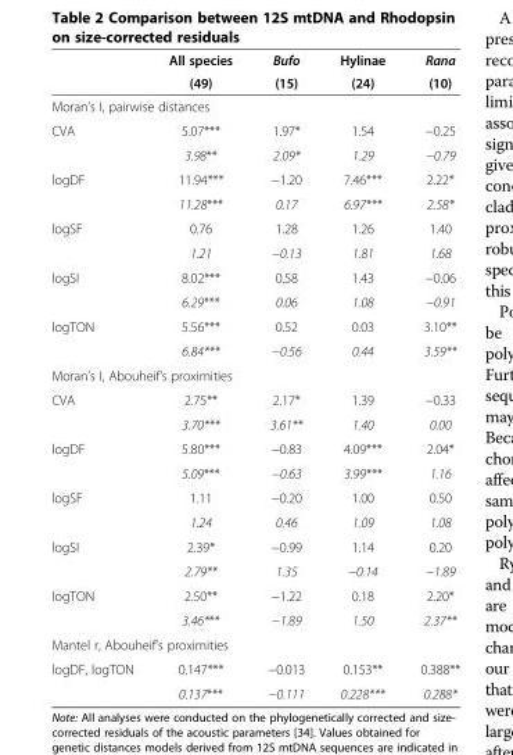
<table><thead><tr><td rowspan="2"></td><td rowspan="2">All species (49)</td><td rowspan="2">Bufo (15)</td><td rowspan="2">Hylinae (24)</td><td rowspan="2">Rana (10)</td></tr><tr></tr></thead><tbody><tr><td colspan="5">Moran’s I, pairwise distances</td></tr><tr><td rowspan="2">CVA</td><td>5.07***</td><td>1.97*</td><td>1.54</td><td>−0.25</td></tr><tr><td>3.98**</td><td>2.09*</td><td>1.29</td><td>−0.79</td></tr><tr><td rowspan="2">logDF</td><td>11.94***</td><td>−1.20</td><td>7.46***</td><td>2.22*</td></tr><tr><td>11.28***</td><td>0.17</td><td>6.97***</td><td>2.58*</td></tr><tr><td rowspan="2">logSF</td><td>0.76</td><td>1.28</td><td>1.26</td><td>1.40</td></tr><tr><td>1.21</td><td>−0.13</td><td>1.81</td><td>1.68</td></tr><tr><td rowspan="2">logSI</td><td>8.02***</td><td>0.58</td><td>1.43</td><td>−0.06</td></tr><tr><td>6.29***</td><td>0.06</td><td>1.08</td><td>−0.91</td></tr><tr><td rowspan="2">logTON</td><td>5.56***</td><td>0.52</td><td>0.03</td><td>3.10**</td></tr><tr><td>6.84***</td><td>−0.56</td><td>0.44</td><td>3.59**</td></tr><tr><td colspan="5">Moran’s I, Abouheif’s proximities</td></tr><tr><td rowspan="2">CVA</td><td>2.75**</td><td>2.17*</td><td>1.39</td><td>−0.33</td></tr><tr><td>3.70***</td><td>3.61**</td><td>1.40</td><td>0.00</td></tr><tr><td rowspan="2">logDF</td><td>5.80***</td><td>−0.83</td><td>4.09***</td><td>2.04*</td></tr><tr><td>5.09***</td><td>−0.63</td><td>3.99***</td><td>1.16</td></tr><tr><td rowspan="2">logSF</td><td>1.11</td><td>−0.20</td><td>1.00</td><td>0.50</td></tr><tr><td>1.24</td><td>0.46</td><td>1.09</td><td>1.08</td></tr><tr><td rowspan="2">logSI</td><td>2.39*</td><td>−0.99</td><td>1.14</td><td>0.20</td></tr><tr><td>2.79**</td><td>1.35</td><td>−0.14</td><td>−1.89</td></tr><tr><td rowspan="2">logTON</td><td>2.50**</td><td>−1.22</td><td>0.18</td><td>2.20*</td></tr><tr><td>3.46***</td><td>−1.89</td><td>1.50</td><td>2.37**</td></tr><tr><td colspan="5">Mantel r, Abouheif’s proximities</td></tr><tr><td rowspan="2">logDF, logTON</td><td>0.147***</td><td>−0.013</td><td>0.153**</td><td>0.388**</td></tr><tr><td>0.137***</td><td>−0.111</td><td>0.228***</td><td>0.288*</td></tr></tbody></table>